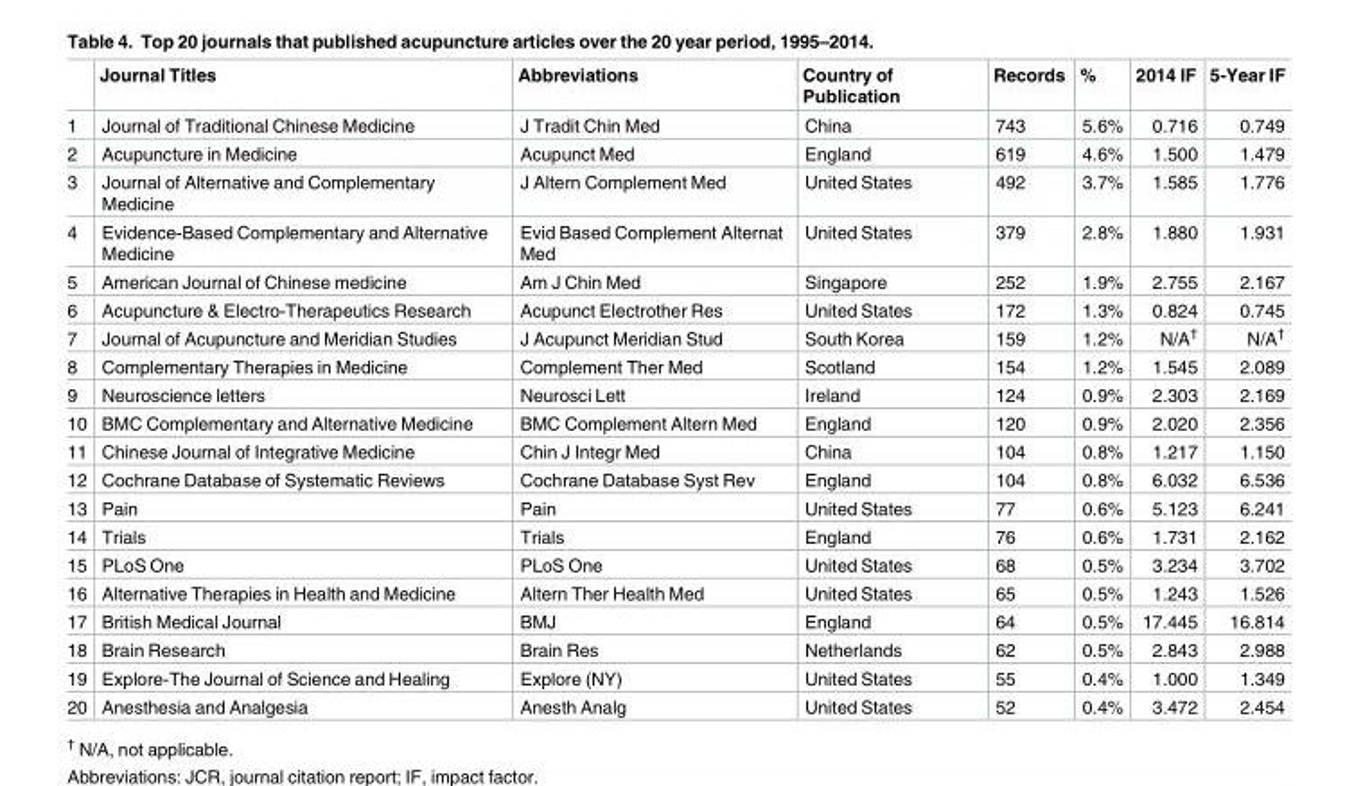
<table><thead><tr><td></td><td>Journal Titles</td><td>Abbreviations</td><td>Country of Publication</td><td>Records</td><td>%</td><td>2014 IF</td><td>5-Year IF</td></tr></thead><tbody><tr><td>1</td><td>Journal of Traditional Chinese Medicine</td><td>J Tradit Chin Med</td><td>China</td><td>743</td><td>5.6%</td><td>0.716</td><td>0.749</td></tr><tr><td>2</td><td>Acupuncture in Medicine</td><td>Acupunct Med</td><td>England</td><td>619</td><td>4.6%</td><td>1.500</td><td>1.479</td></tr><tr><td>3</td><td>Journal of Alternative and Complementary Medicine</td><td>J Altern Complement Med</td><td>United States</td><td>492</td><td>3.7%</td><td>1.585</td><td>1.776</td></tr><tr><td>4</td><td>Evidence-Based Complementary and Alternative Medicine</td><td>Evid Based Complement Alternat Med</td><td>United States</td><td>379</td><td>2.8%</td><td>1.880</td><td>1.931</td></tr><tr><td>5</td><td>American Journal of Chinese medicine</td><td>Am J Chin Med</td><td>Singapore</td><td>252</td><td>1.9%</td><td>2.755</td><td>2.167</td></tr><tr><td>6</td><td>Acupuncture &amp; Electro-Therapeutics Research</td><td>Acupunct Electrother Res</td><td>United States</td><td>172</td><td>1.3%</td><td>0.824</td><td>0.745</td></tr><tr><td>7</td><td>Journal of Acupuncture and Meridian Studies</td><td>J Acupunct Meridian Stud</td><td>South Korea</td><td>159</td><td>1.2%</td><td>N/A<sup>†</sup></td><td>N/A<sup>†</sup></td></tr><tr><td>8</td><td>Complementary Therapies in Medicine</td><td>Complement Ther Med</td><td>Scotland</td><td>154</td><td>1.2%</td><td>1.545</td><td>2.089</td></tr><tr><td>9</td><td>Neuroscience letters</td><td>Neurosci Lett</td><td>Ireland</td><td>124</td><td>0.9%</td><td>2.303</td><td>2.169</td></tr><tr><td>10</td><td>BMC Complementary and Alternative Medicine</td><td>BMC Complement Altern Med</td><td>England</td><td>120</td><td>0.9%</td><td>2.020</td><td>2.356</td></tr><tr><td>11</td><td>Chinese Journal of Integrative Medicine</td><td>Chin J Integr Med</td><td>China</td><td>104</td><td>0.8%</td><td>1.217</td><td>1.150</td></tr><tr><td>12</td><td>Cochrane Database of Systematic Reviews</td><td>Cochrane Database Syst Rev</td><td>England</td><td>104</td><td>0.8%</td><td>6.032</td><td>6.536</td></tr><tr><td>13</td><td>Pain</td><td>Pain</td><td>United States</td><td>77</td><td>0.6%</td><td>5.123</td><td>6.241</td></tr><tr><td>14</td><td>Trials</td><td>Trials</td><td>England</td><td>76</td><td>0.6%</td><td>1.731</td><td>2.162</td></tr><tr><td>15</td><td>PLoS One</td><td>PLoS One</td><td>United States</td><td>68</td><td>0.5%</td><td>3.234</td><td>3.702</td></tr><tr><td>16</td><td>Alternative Therapies in Health and Medicine</td><td>Altern Ther Health Med</td><td>United States</td><td>65</td><td>0.5%</td><td>1.243</td><td>1.526</td></tr><tr><td>17</td><td>British Medical Journal</td><td>BMJ</td><td>England</td><td>64</td><td>0.5%</td><td>17.445</td><td>16.814</td></tr><tr><td>18</td><td>Brain Research</td><td>Brain Res</td><td>Netherlands</td><td>62</td><td>0.5%</td><td>2.843</td><td>2.988</td></tr><tr><td>19</td><td>Explore-The Journal of Science and Healing</td><td>Explore (NY)</td><td>United States</td><td>55</td><td>0.4%</td><td>1.000</td><td>1.349</td></tr><tr><td>20</td><td>Anesthesia and Analgesia</td><td>Anesth Analg</td><td>United States</td><td>52</td><td>0.4%</td><td>3.472</td><td>2.454</td></tr></tbody></table>